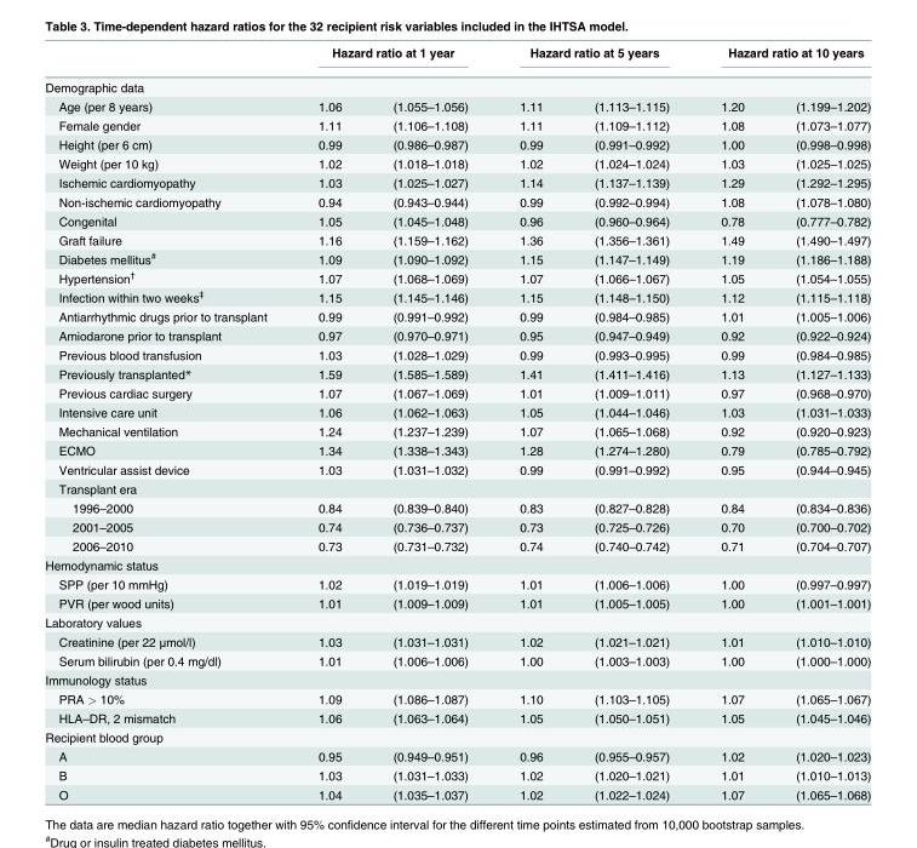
<table><thead><tr><td rowspan="2">Demographic data</td><td colspan="2">Hazard ratio at 1 year</td><td colspan="2">Hazard ratio at 5 years</td><td colspan="2">Hazard ratio at 10 years</td></tr><tr><td></td><td></td><td></td><td></td><td></td><td></td></tr></thead><tbody><tr><td>Age (per 8 years)</td><td>1.06</td><td>(1.055–1.056)</td><td>1.11</td><td>(1.113–1.115)</td><td>1.20</td><td>(1.199–1.202)</td></tr><tr><td>Female gender</td><td>1.11</td><td>(1.106–1.108)</td><td>1.11</td><td>(1.109–1.112)</td><td>1.08</td><td>(1.073–1.077)</td></tr><tr><td>Height (per 6 cm)</td><td>0.99</td><td>(0.986–0.987)</td><td>0.99</td><td>(0.991–0.992)</td><td>1.00</td><td>(0.998–0.998)</td></tr><tr><td>Weight (per 10 kg)</td><td>1.02</td><td>(1.018–1.018)</td><td>1.02</td><td>(1.024–1.024)</td><td>1.03</td><td>(1.025–1.025)</td></tr><tr><td>Ischemic cardiomyopathy</td><td>1.03</td><td>(1.025–1.027)</td><td>1.14</td><td>(1.137–1.139)</td><td>1.29</td><td>(1.292–1.295)</td></tr><tr><td>Non-ischemic cardiomyopathy</td><td>0.94</td><td>(0.943–0.944)</td><td>0.99</td><td>(0.992–0.994)</td><td>1.08</td><td>(1.078–1.080)</td></tr><tr><td>Congenital</td><td>1.05</td><td>(1.045–1.048)</td><td>0.96</td><td>(0.960–0.964)</td><td>0.78</td><td>(0.777–0.782)</td></tr><tr><td>Graft failure</td><td>1.16</td><td>(1.159–1.162)</td><td>1.36</td><td>(1.356–1.361)</td><td>1.49</td><td>(1.490–1.497)</td></tr><tr><td>Diabetes mellitus<sup>#</sup></td><td>1.09</td><td>(1.090–1.092)</td><td>1.15</td><td>(1.147–1.149)</td><td>1.19</td><td>(1.186–1.188)</td></tr><tr><td>Hypertension<sup>†</sup></td><td>1.07</td><td>(1.068–1.069)</td><td>1.07</td><td>(1.066–1.067)</td><td>1.05</td><td>(1.054–1.055)</td></tr><tr><td>Infection within two weeks<sup>‡</sup></td><td>1.15</td><td>(1.145–1.146)</td><td>1.15</td><td>(1.148–1.150)</td><td>1.12</td><td>(1.115–1.118)</td></tr><tr><td>Antiarrhythmic drugs prior to transplant</td><td>0.99</td><td>(0.991–0.992)</td><td>0.99</td><td>(0.984–0.985)</td><td>1.01</td><td>(1.005–1.006)</td></tr><tr><td>Amiodarone prior to transplant</td><td>0.97</td><td>(0.970–0.971)</td><td>0.95</td><td>(0.947–0.949)</td><td>0.92</td><td>(0.922–0.924)</td></tr><tr><td>Previous blood transfusion</td><td>1.03</td><td>(1.028–1.029)</td><td>0.99</td><td>(0.993–0.995)</td><td>0.99</td><td>(0.984–0.985)</td></tr><tr><td>Previously transplanted*</td><td>1.59</td><td>(1.585–1.589)</td><td>1.41</td><td>(1.411–1.416)</td><td>1.13</td><td>(1.127–1.133)</td></tr><tr><td>Previous cardiac surgery</td><td>1.07</td><td>(1.067–1.069)</td><td>1.01</td><td>(1.009–1.011)</td><td>0.97</td><td>(0.968–0.970)</td></tr><tr><td>Intensive care unit</td><td>1.06</td><td>(1.062–1.063)</td><td>1.05</td><td>(1.044–1.046)</td><td>1.03</td><td>(1.031–1.033)</td></tr><tr><td>Mechanical ventilation</td><td>1.24</td><td>(1.237–1.239)</td><td>1.07</td><td>(1.065–1.068)</td><td>0.92</td><td>(0.920–0.923)</td></tr><tr><td>ECMO</td><td>1.34</td><td>(1.338–1.343)</td><td>1.28</td><td>(1.274–1.280)</td><td>0.79</td><td>(0.785–0.792)</td></tr><tr><td>Ventricular assist device</td><td>1.03</td><td>(1.031–1.032)</td><td>0.99</td><td>(0.991–0.992)</td><td>0.95</td><td>(0.944–0.945)</td></tr><tr><td colspan="7">Transplant era</td></tr><tr><td>1996–2000</td><td>0.84</td><td>(0.839–0.840)</td><td>0.83</td><td>(0.827–0.828)</td><td>0.84</td><td>(0.834–0.836)</td></tr><tr><td>2001–2005</td><td>0.74</td><td>(0.736–0.737)</td><td>0.73</td><td>(0.725–0.726)</td><td>0.70</td><td>(0.700–0.702)</td></tr><tr><td>2006–2010</td><td>0.73</td><td>(0.731–0.732)</td><td>0.74</td><td>(0.740–0.742)</td><td>0.71</td><td>(0.704–0.707)</td></tr><tr><td colspan="7">Hemodynamic status</td></tr><tr><td>SPP (per 10 mmHg)</td><td>1.02</td><td>(1.019–1.019)</td><td>1.01</td><td>(1.006–1.006)</td><td>1.00</td><td>(0.997–0.997)</td></tr><tr><td>PVR (per wood units)</td><td>1.01</td><td>(1.009–1.009)</td><td>1.01</td><td>(1.005–1.005)</td><td>1.00</td><td>(1.001–1.001)</td></tr><tr><td colspan="7">Laboratory values</td></tr><tr><td>Creatinine (per 22 μmol/l)</td><td>1.03</td><td>(1.031–1.031)</td><td>1.02</td><td>(1.021–1.021)</td><td>1.01</td><td>(1.010–1.010)</td></tr><tr><td>Serum bilirubin (per 0.4 mg/dl)</td><td>1.01</td><td>(1.006–1.006)</td><td>1.00</td><td>(1.003–1.003)</td><td>1.00</td><td>(1.000–1.000)</td></tr><tr><td colspan="7">Immunology status</td></tr><tr><td>PRA &gt; 10%</td><td>1.09</td><td>(1.086–1.087)</td><td>1.10</td><td>(1.103–1.105)</td><td>1.07</td><td>(1.065–1.067)</td></tr><tr><td>HLA–DR, 2 mismatch</td><td>1.06</td><td>(1.063–1.064)</td><td>1.05</td><td>(1.050–1.051)</td><td>1.05</td><td>(1.045–1.046)</td></tr><tr><td colspan="7">Recipient blood group</td></tr><tr><td>A</td><td>0.95</td><td>(0.949–0.951)</td><td>0.96</td><td>(0.955–0.957)</td><td>1.02</td><td>(1.020–1.023)</td></tr><tr><td>B</td><td>1.03</td><td>(1.031–1.033)</td><td>1.02</td><td>(1.020–1.021)</td><td>1.01</td><td>(1.010–1.013)</td></tr><tr><td>O</td><td>1.04</td><td>(1.035–1.037)</td><td>1.02</td><td>(1.022–1.024)</td><td>1.07</td><td>(1.065–1.068)</td></tr></tbody></table>